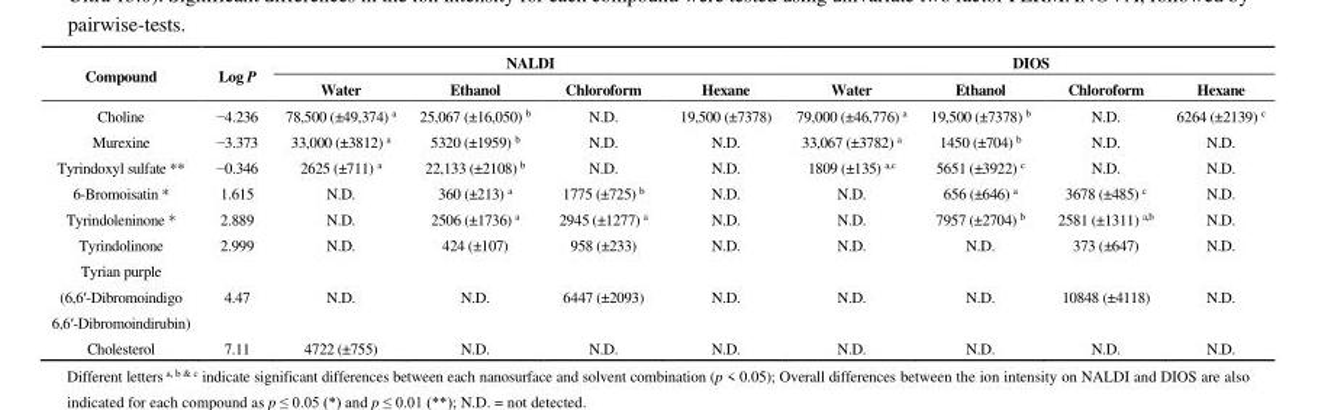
<table><thead><tr><td rowspan="2">Compound</td><td rowspan="2">Log P</td><td colspan="4">NALDI</td><td colspan="4">DIOS</td></tr><tr><td>Water</td><td>Ethanol</td><td>Chloroform</td><td>Hexane</td><td>Water</td><td>Ethanol</td><td>Chloroform</td><td>Hexane</td></tr></thead><tbody><tr><td>Choline</td><td>−4.236</td><td>78,500 (±49,374) <sup>a</sup></td><td>25,067 (±16,050) <sup>b</sup></td><td>N.D.</td><td>19,500 (±7378)</td><td>79,000 (±46,776) <sup>a</sup></td><td>19,500 (±7378) <sup>b</sup></td><td>N.D.</td><td>6264 (±2139) <sup>c</sup></td></tr><tr><td>Murexine</td><td>−3.373</td><td>33,000 (±3812) <sup>a</sup></td><td>5320 (±1959) <sup>b</sup></td><td>N.D.</td><td>N.D.</td><td>33,067 (±3782) <sup>a</sup></td><td>1450 (±704) <sup>b</sup></td><td>N.D.</td><td>N.D.</td></tr><tr><td>Tyrindoxyl sulfate **</td><td>−0.346</td><td>2625 (±711) <sup>a</sup></td><td>22,133 (±2108) <sup>b</sup></td><td>N.D.</td><td>N.D.</td><td>1809 (±135) <sup>a,c</sup></td><td>5651 (±3922) <sup>c</sup></td><td>N.D.</td><td>N.D.</td></tr><tr><td>6-Bromoisatin *</td><td>1.615</td><td>N.D.</td><td>360 (±213) <sup>a</sup></td><td>1775 (±725) <sup>b</sup></td><td>N.D.</td><td>N.D.</td><td>656 (±646) <sup>a</sup></td><td>3678 (±485) <sup>c</sup></td><td>N.D.</td></tr><tr><td>Tyrindoleninone *</td><td>2.889</td><td>N.D.</td><td>2506 (±1736) <sup>a</sup></td><td>2945 (±1277) <sup>a</sup></td><td>N.D.</td><td>N.D.</td><td>7957 (±2704) <sup>b</sup></td><td>2581 (±1311) <sup>a,b</sup></td><td>N.D.</td></tr><tr><td>Tyrindolinone</td><td>2.999</td><td>N.D.</td><td>424 (±107)</td><td>958 (±233)</td><td>N.D.</td><td>N.D.</td><td>N.D.</td><td>373 (±647)</td><td>N.D.</td></tr><tr><td>Tyrian purple (6,6′-Dibromoindigo</td><td rowspan="2">4.47</td><td rowspan="2">N.D.</td><td rowspan="2">N.D.</td><td rowspan="2">6447 (±2093)</td><td rowspan="2">N.D.</td><td rowspan="2">N.D.</td><td rowspan="2">N.D.</td><td rowspan="2">10848 (±4118)</td><td rowspan="2">N.D.</td></tr><tr><td>6,6′-Dibromoindirubin)</td></tr><tr><td>Cholesterol</td><td>7.11</td><td>4722 (±755)</td><td>N.D.</td><td>N.D.</td><td>N.D.</td><td>N.D.</td><td>N.D.</td><td>N.D.</td><td>N.D.</td></tr></tbody></table>